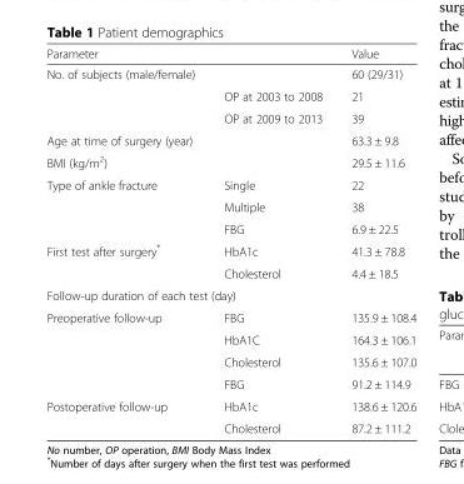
<table><thead><tr><td>Parameter</td><td></td><td>Value</td></tr></thead><tbody><tr><td rowspan="3">No. of subjects (male/female)</td><td></td><td>60 (29/31)</td></tr><tr><td>OP at 2003 to 2008</td><td>21</td></tr><tr><td>OP at 2009 to 2013</td><td>39</td></tr><tr><td>Age at time of surgery (year)</td><td></td><td>63.3 ± 9.8</td></tr><tr><td>BMI (kg/m<sup>2</sup>)</td><td></td><td>29.5 ± 11.6</td></tr><tr><td rowspan="3">Type of ankle fracture</td><td>Single</td><td>22</td></tr><tr><td>Multiple</td><td>38</td></tr><tr><td>FBG</td><td>6.9 ± 22.5</td></tr><tr><td rowspan="2">First test after surgery*</td><td>HbA1c</td><td>41.3 ± 78.8</td></tr><tr><td>Cholesterol</td><td>4.4 ± 18.5</td></tr><tr><td colspan="3">Follow-up duration of each test (day)</td></tr><tr><td rowspan="4">Preoperative follow-up</td><td>FBG</td><td>135.9 ± 108.4</td></tr><tr><td>HbA1C</td><td>164.3 ± 106.1</td></tr><tr><td>Cholesterol</td><td>135.6 ± 107.0</td></tr><tr><td>FBG</td><td>91.2 ± 114.9</td></tr><tr><td rowspan="2">Postoperative follow-up</td><td>HbA1c</td><td>138.6 ± 120.6</td></tr><tr><td>Cholesterol</td><td>87.2 ± 111.2</td></tr></tbody></table>